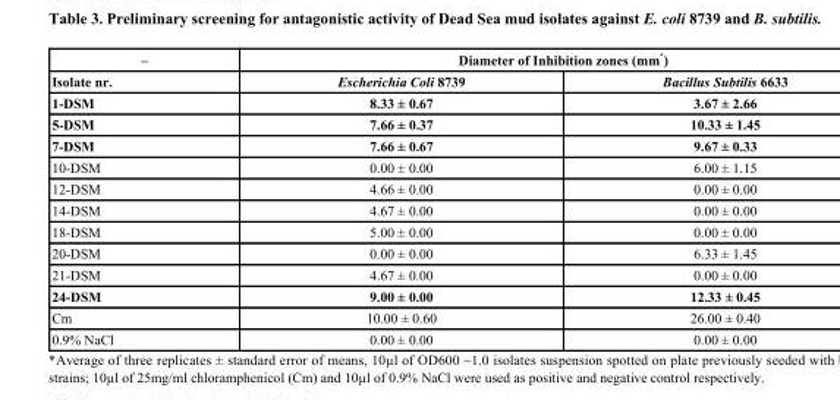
<table><thead><tr><td rowspan="2">– Isolate nr.</td><td colspan="2">Diameter of Inhibition zones (mm *)</td></tr><tr><td>Escherichia Coli 8739</td><td>Bacillus Subtilis 6633</td></tr></thead><tbody><tr><td>1-DSM</td><td>8.33 ± 0.67</td><td>3.67 ± 2.66</td></tr><tr><td>5-DSM</td><td>7.66 ± 0.37</td><td>10.33 ± 1.45</td></tr><tr><td>7-DSM</td><td>7.66 ± 0.67</td><td>9.67 ± 0.33</td></tr><tr><td>10-DSM</td><td>0.00 ± 0.00</td><td>6.00 ± 1.15</td></tr><tr><td>12-DSM</td><td>4.66 ± 0.00</td><td>0.00 ± 0.00</td></tr><tr><td>14-DSM</td><td>4.67 ± 0.00</td><td>0.00 ± 0.00</td></tr><tr><td>18-DSM</td><td>5.00 ± 0.00</td><td>0.00 ± 0.00</td></tr><tr><td>20-DSM</td><td>0.00 ± 0.00</td><td>6.33 ± 1.45</td></tr><tr><td>21-DSM</td><td>4.67 ± 0.00</td><td>0.00 ± 0.00</td></tr><tr><td>24-DSM</td><td>9.00 ± 0.00</td><td>12.33 ± 0.45</td></tr><tr><td>Cm</td><td>10.00 ± 0.60</td><td>26.00 ± 0.40</td></tr><tr><td>0.9% NaCl</td><td>0.00 ± 0.00</td><td>0.00 ± 0.00</td></tr></tbody></table>